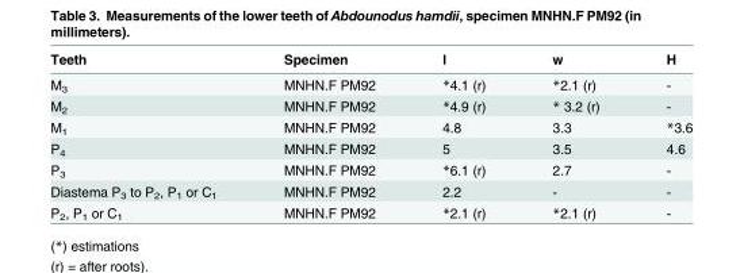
<table><thead><tr><td>Teeth</td><td>Specimen</td><td>l</td><td>w</td><td>H</td></tr></thead><tbody><tr><td>M<sub>3</sub></td><td>MNHN.F PM92</td><td>*4.1 (r)</td><td>*2.1 (r)</td><td>-</td></tr><tr><td>M<sub>2</sub></td><td>MNHN.F PM92</td><td>*4.9 (r)</td><td>* 3.2 (r)</td><td>-</td></tr><tr><td>M<sub>1</sub></td><td>MNHN.F PM92</td><td>4.8</td><td>3.3</td><td>*3.6</td></tr><tr><td>P<sub>4</sub></td><td>MNHN.F PM92</td><td>5</td><td>3.5</td><td>4.6</td></tr><tr><td>P<sub>3</sub></td><td>MNHN.F PM92</td><td>*6.1 (r)</td><td>2.7</td><td>-</td></tr><tr><td>Diastema P<sub>3</sub> to P<sub>2</sub>, P<sub>1</sub> or C<sub>1</sub></td><td>MNHN.F PM92</td><td>2.2</td><td>-</td><td>-</td></tr><tr><td>P<sub>2</sub>, P<sub>1</sub> or C<sub>1</sub></td><td>MNHN.F PM92</td><td>*2.1 (r)</td><td>*2.1 (r)</td><td>-</td></tr></tbody></table>